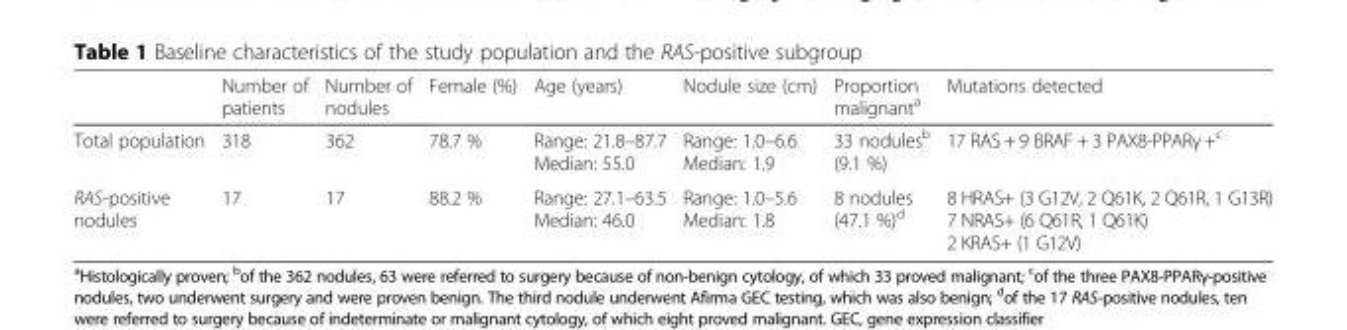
<table><thead><tr><td></td><td>Number of patients</td><td>Number of nodules</td><td>Female (%)</td><td>Age (years)</td><td>Nodule size (cm)</td><td>Proportion malignant<sup>a</sup></td><td>Mutations detected</td></tr></thead><tbody><tr><td>Total population</td><td>318</td><td>362</td><td>78.7 %</td><td>Range: 21.8–87.7 Median: 55.0</td><td>Range: 1.0–6.6 Median: 1.9</td><td>33 nodules<sup>b</sup> (9.1 %)</td><td>17 RAS + 9 BRAF + 3 PAX8-PPARγ +<sup>c</sup></td></tr><tr><td>RAS-positive nodules</td><td>17</td><td>17</td><td>88.2 %</td><td>Range: 27.1–63.5 Median: 46.0</td><td>Range: 1.0–5.6 Median: 1.8</td><td>8 nodules (47.1 %)<sup>d</sup></td><td>8 HRAS+ (3 G12V, 2 Q61K, 2 Q61R, 1 G13R) 7 NRAS+ (6 Q61R, 1 Q61K) 2 KRAS+ (1 G12V)</td></tr></tbody></table>